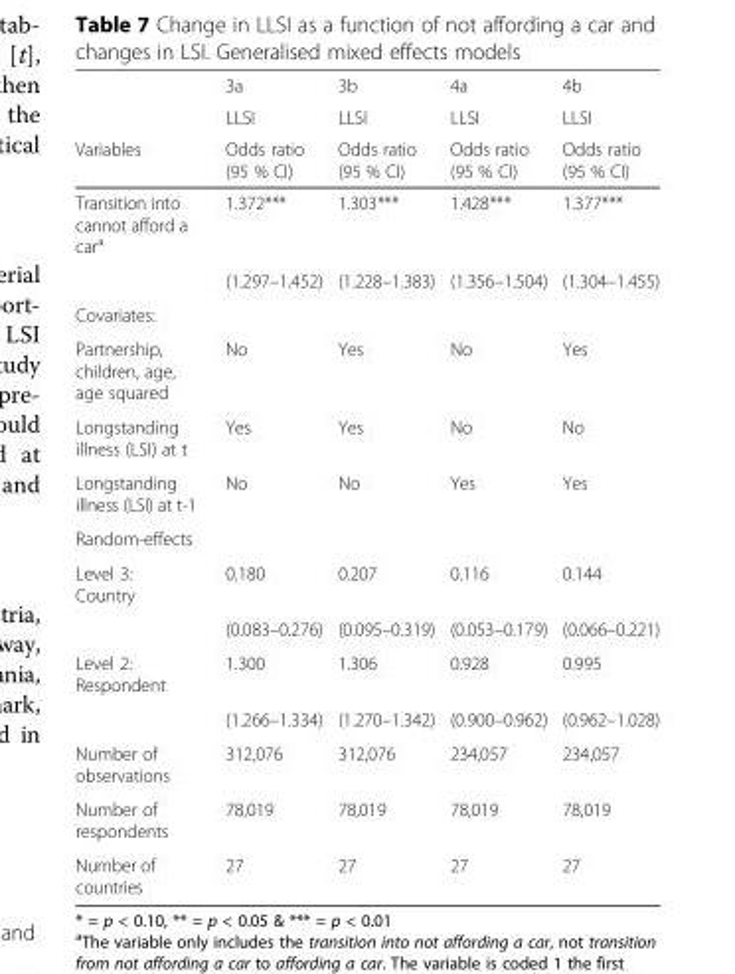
<table><thead><tr><td rowspan="3">Variables</td><td rowspan="3">3a LLSI Odds ratio (95 % CI)</td><td rowspan="3">3b LLSI Odds ratio (95 % CI)</td><td rowspan="3">4a LLSI Odds ratio (95 % CI)</td><td rowspan="3">4b LLSI Odds ratio (95 % CI)</td></tr><tr></tr><tr></tr></thead><tbody><tr><td rowspan="2">Transition into cannot afford a car<sup>a</sup></td><td>1.372***</td><td>1.303***</td><td>1.428***</td><td>1.377***</td></tr><tr><td>(1.297–1.452)</td><td>(1.228–1.383)</td><td>(1.356–1.504)</td><td>(1.304–1.455)</td></tr><tr><td colspan="5">Covariates:</td></tr><tr><td>Partnership, children, age, age squared</td><td>No</td><td>Yes</td><td>No</td><td>Yes</td></tr><tr><td>Longstanding illness (LSI) at t</td><td>Yes</td><td>Yes</td><td>No</td><td>No</td></tr><tr><td>Longstanding illness (LSI) at t-1</td><td>No</td><td>No</td><td>Yes</td><td>Yes</td></tr><tr><td colspan="5">Random-effects</td></tr><tr><td rowspan="2">Level 3: Country</td><td>0.180</td><td>0.207</td><td>0.116</td><td>0.144</td></tr><tr><td>(0.083–0.276)</td><td>(0.095–0.319)</td><td>(0.053–0.179)</td><td>(0.066–0.221)</td></tr><tr><td rowspan="2">Level 2: Respondent</td><td>1.300</td><td>1.306</td><td>0.928</td><td>0.995</td></tr><tr><td>(1.266–1.334)</td><td>(1.270–1.342)</td><td>(0.900–0.962)</td><td>(0.962–1.028)</td></tr><tr><td>Number of observations</td><td>312,076</td><td>312,076</td><td>234,057</td><td>234,057</td></tr><tr><td>Number of respondents</td><td>78,019</td><td>78,019</td><td>78,019</td><td>78,019</td></tr><tr><td>Number of countries</td><td>27</td><td>27</td><td>27</td><td>27</td></tr></tbody></table>